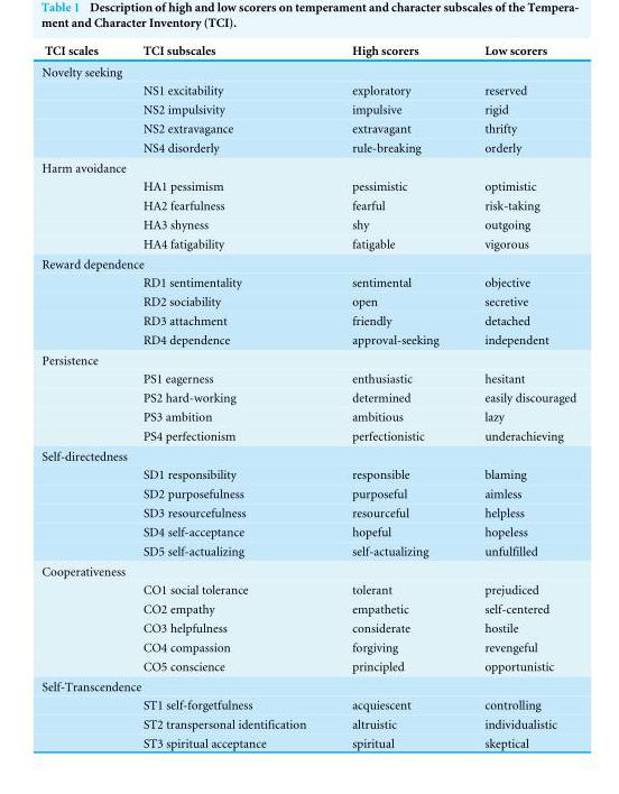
<table><thead><tr><td>TCI scales</td><td>TCI subscales</td><td>High scorers</td><td>Low scorers</td></tr></thead><tbody><tr><td colspan="4">Novelty seeking</td></tr><tr><td></td><td>NS1 excitability</td><td>exploratory</td><td>reserved</td></tr><tr><td></td><td>NS2 impulsivity</td><td>impulsive</td><td>rigid</td></tr><tr><td></td><td>NS2 extravagance</td><td>extravagant</td><td>thrifty</td></tr><tr><td></td><td>NS4 disorderly</td><td>rule-breaking</td><td>orderly</td></tr><tr><td colspan="4">Harm avoidance</td></tr><tr><td></td><td>HA1 pessimism</td><td>pessimistic</td><td>optimistic</td></tr><tr><td></td><td>HA2 fearfulness</td><td>fearful</td><td>risk-taking</td></tr><tr><td></td><td>HA3 shyness</td><td>shy</td><td>outgoing</td></tr><tr><td></td><td>HA4 fatigability</td><td>fatigable</td><td>vigorous</td></tr><tr><td colspan="4">Reward dependence</td></tr><tr><td></td><td>RD1 sentimentality</td><td>sentimental</td><td>objective</td></tr><tr><td></td><td>RD2 sociability</td><td>open</td><td>secretive</td></tr><tr><td></td><td>RD3 attachment</td><td>friendly</td><td>detached</td></tr><tr><td></td><td>RD4 dependence</td><td>approval-seeking</td><td>independent</td></tr><tr><td colspan="4">Persistence</td></tr><tr><td></td><td>PS1 eagerness</td><td>enthusiastic</td><td>hesitant</td></tr><tr><td></td><td>PS2 hard-working</td><td>determined</td><td>easily discouraged</td></tr><tr><td></td><td>PS3 ambition</td><td>ambitious</td><td>lazy</td></tr><tr><td></td><td>PS4 perfectionism</td><td>perfectionistic</td><td>underachieving</td></tr><tr><td colspan="4">Self-directedness</td></tr><tr><td></td><td>SD1 responsibility</td><td>responsible</td><td>blaming</td></tr><tr><td></td><td>SD2 purposefulness</td><td>purposeful</td><td>aimless</td></tr><tr><td></td><td>SD3 resourcefulness</td><td>resourceful</td><td>helpless</td></tr><tr><td></td><td>SD4 self-acceptance</td><td>hopeful</td><td>hopeless</td></tr><tr><td></td><td>SD5 self-actualizing</td><td>self-actualizing</td><td>unfulfilled</td></tr><tr><td colspan="4">Cooperativeness</td></tr><tr><td></td><td>CO1 social tolerance</td><td>tolerant</td><td>prejudiced</td></tr><tr><td></td><td>CO2 empathy</td><td>empathetic</td><td>self-centered</td></tr><tr><td></td><td>CO3 helpfulness</td><td>considerate</td><td>hostile</td></tr><tr><td></td><td>CO4 compassion</td><td>forgiving</td><td>revengeful</td></tr><tr><td></td><td>CO5 conscience</td><td>principled</td><td>opportunistic</td></tr><tr><td colspan="4">Self-Transcendence</td></tr><tr><td></td><td>ST1 self-forgetfulness</td><td>acquiescent</td><td>controlling</td></tr><tr><td></td><td>ST2 transpersonal identification</td><td>altruistic</td><td>individualistic</td></tr><tr><td></td><td>ST3 spiritual acceptance</td><td>spiritual</td><td>skeptical</td></tr></tbody></table>